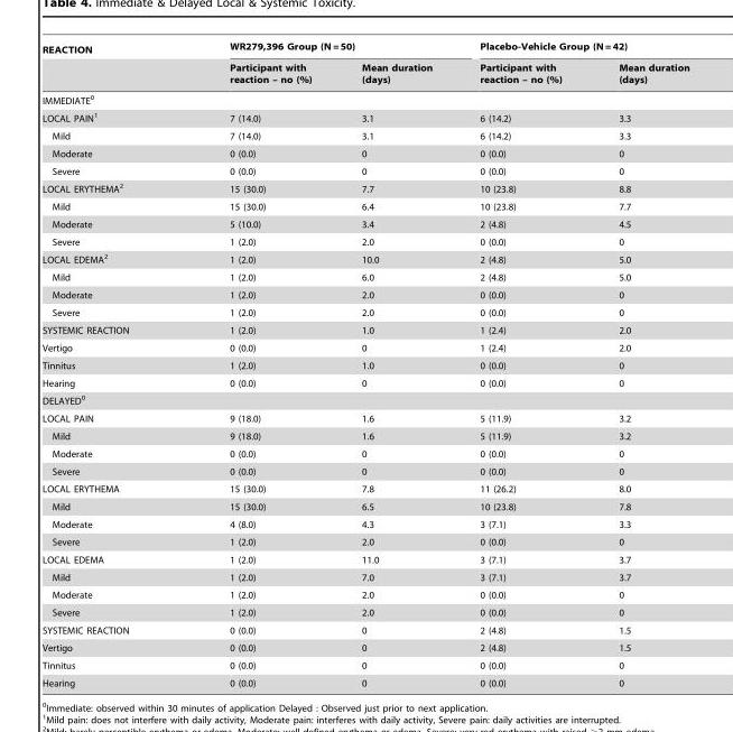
<table><thead><tr><td rowspan="2">REACTION</td><td colspan="2">WR279,396 Group (N = 50)</td><td colspan="2">Placebo-Vehicle Group (N = 42)</td></tr><tr><td>Participant with reaction – no (%)</td><td>Mean duration (days)</td><td>Participant with reaction – no (%)</td><td>Mean duration (days)</td></tr></thead><tbody><tr><td colspan="5">IMMEDIATE<sup>0</sup></td></tr><tr><td>LOCAL PAIN<sup>1</sup></td><td>7 (14.0)</td><td>3.1</td><td>6 (14.2)</td><td>3.3</td></tr><tr><td>Mild</td><td>7 (14.0)</td><td>3.1</td><td>6 (14.2)</td><td>3.3</td></tr><tr><td>Moderate</td><td>0 (0.0)</td><td>0</td><td>0 (0.0)</td><td>0</td></tr><tr><td>Severe</td><td>0 (0.0)</td><td>0</td><td>0 (0.0)</td><td>0</td></tr><tr><td>LOCAL ERYTHEMA<sup>2</sup></td><td>15 (30.0)</td><td>7.7</td><td>10 (23.8)</td><td>8.8</td></tr><tr><td>Mild</td><td>15 (30.0)</td><td>6.4</td><td>10 (23.8)</td><td>7.7</td></tr><tr><td>Moderate</td><td>5 (10.0)</td><td>3.4</td><td>2 (4.8)</td><td>4.5</td></tr><tr><td>Severe</td><td>1 (2.0)</td><td>2.0</td><td>0 (0.0)</td><td>0</td></tr><tr><td>LOCAL EDEMA<sup>2</sup></td><td>1 (2.0)</td><td>10.0</td><td>2 (4.8)</td><td>5.0</td></tr><tr><td>Mild</td><td>1 (2.0)</td><td>6.0</td><td>2 (4.8)</td><td>5.0</td></tr><tr><td>Moderate</td><td>1 (2.0)</td><td>2.0</td><td>0 (0.0)</td><td>0</td></tr><tr><td>Severe</td><td>1 (2.0)</td><td>2.0</td><td>0 (0.0)</td><td>0</td></tr><tr><td>SYSTEMIC REACTION</td><td>1 (2.0)</td><td>1.0</td><td>1 (2.4)</td><td>2.0</td></tr><tr><td>Vertigo</td><td>0 (0.0)</td><td>0</td><td>1 (2.4)</td><td>2.0</td></tr><tr><td>Tinnitus</td><td>1 (2.0)</td><td>1.0</td><td>0 (0.0)</td><td>0</td></tr><tr><td>Hearing</td><td>0 (0.0)</td><td>0</td><td>0 (0.0)</td><td>0</td></tr><tr><td colspan="5">DELAYED<sup>0</sup></td></tr><tr><td>LOCAL PAIN</td><td>9 (18.0)</td><td>1.6</td><td>5 (11.9)</td><td>3.2</td></tr><tr><td>Mild</td><td>9 (18.0)</td><td>1.6</td><td>5 (11.9)</td><td>3.2</td></tr><tr><td>Moderate</td><td>0 (0.0)</td><td>0</td><td>0 (0.0)</td><td>0</td></tr><tr><td>Severe</td><td>0 (0.0)</td><td>0</td><td>0 (0.0)</td><td>0</td></tr><tr><td>LOCAL ERYTHEMA</td><td>15 (30.0)</td><td>7.8</td><td>11 (26.2)</td><td>8.0</td></tr><tr><td>Mild</td><td>15 (30.0)</td><td>6.5</td><td>10 (23.8)</td><td>7.8</td></tr><tr><td>Moderate</td><td>4 (8.0)</td><td>4.3</td><td>3 (7.1)</td><td>3.3</td></tr><tr><td>Severe</td><td>1 (2.0)</td><td>2.0</td><td>0 (0.0)</td><td>0</td></tr><tr><td>LOCAL EDEMA</td><td>1 (2.0)</td><td>11.0</td><td>3 (7.1)</td><td>3.7</td></tr><tr><td>Mild</td><td>1 (2.0)</td><td>7.0</td><td>3 (7.1)</td><td>3.7</td></tr><tr><td>Moderate</td><td>1 (2.0)</td><td>2.0</td><td>0 (0.0)</td><td>0</td></tr><tr><td>Severe</td><td>1 (2.0)</td><td>2.0</td><td>0 (0.0)</td><td>0</td></tr><tr><td>SYSTEMIC REACTION</td><td>0 (0.0)</td><td>0</td><td>2 (4.8)</td><td>1.5</td></tr><tr><td>Vertigo</td><td>0 (0.0)</td><td>0</td><td>2 (4.8)</td><td>1.5</td></tr><tr><td>Tinnitus</td><td>0 (0.0)</td><td>0</td><td>0 (0.0)</td><td>0</td></tr><tr><td>Hearing</td><td>0 (0.0)</td><td>0</td><td>0 (0.0)</td><td>0</td></tr></tbody></table>